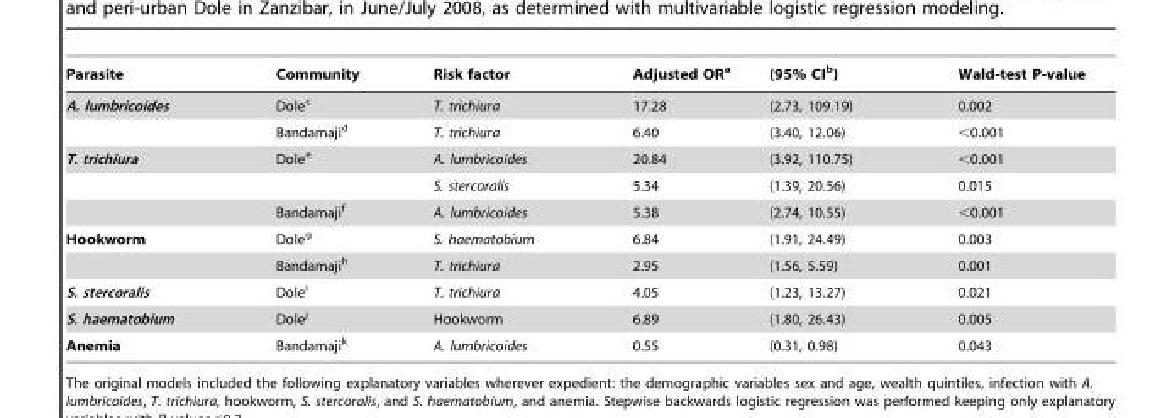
<table><thead><tr><td>Parasite</td><td>Community</td><td>Risk factor</td><td>Adjusted OR<sup>a</sup></td><td>(95% CI<sup>b</sup>)</td><td>Wald-test P-value</td></tr></thead><tbody><tr><td rowspan="2">A. lumbricoides</td><td>Dole<sup>c</sup></td><td>T. trichiura</td><td>17.28</td><td>(2.73, 109.19)</td><td>0.002</td></tr><tr><td>Bandamaji<sup>d</sup></td><td>T. trichiura</td><td>6.40</td><td>(3.40, 12.06)</td><td>&lt;0.001</td></tr><tr><td rowspan="3">T. trichiura</td><td>Dole<sup>e</sup></td><td>A. lumbricoides</td><td>20.84</td><td>(3.92, 110.75)</td><td>&lt;0.001</td></tr><tr><td></td><td>S. stercoralis</td><td>5.34</td><td>(1.39, 20.56)</td><td>0.015</td></tr><tr><td>Bandamaji<sup>f</sup></td><td>A. lumbricoides</td><td>5.38</td><td>(2.74, 10.55)</td><td>&lt;0.001</td></tr><tr><td rowspan="2">Hookworm</td><td>Dole<sup>g</sup></td><td>S. haematobium</td><td>6.84</td><td>(1.91, 24.49)</td><td>0.003</td></tr><tr><td>Bandamaji<sup>h</sup></td><td>T. trichiura</td><td>2.95</td><td>(1.56, 5.59)</td><td>0.001</td></tr><tr><td>S. stercoralis</td><td>Dole<sup>i</sup></td><td>T. trichiura</td><td>4.05</td><td>(1.23, 13.27)</td><td>0.021</td></tr><tr><td>S. haematobium</td><td>Dole<sup>j</sup></td><td>Hookworm</td><td>6.89</td><td>(1.80, 26.43)</td><td>0.005</td></tr><tr><td>Anemia</td><td>Bandamaji<sup>k</sup></td><td>A. lumbricoides</td><td>0.55</td><td>(0.31, 0.98)</td><td>0.043</td></tr></tbody></table>